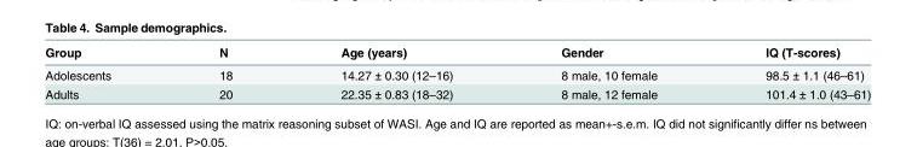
<table><thead><tr><td>Group</td><td>N</td><td>Age (years)</td><td>Gender</td><td>IQ (T-scores)</td></tr></thead><tbody><tr><td>Adolescents</td><td>18</td><td>14.27 ± 0.30 (12–16)</td><td>8 male, 10 female</td><td>98.5 ± 1.1 (46–61)</td></tr><tr><td>Adults</td><td>20</td><td>22.35 ± 0.83 (18–32)</td><td>8 male, 12 female</td><td>101.4 ± 1.0 (43–61)</td></tr></tbody></table>